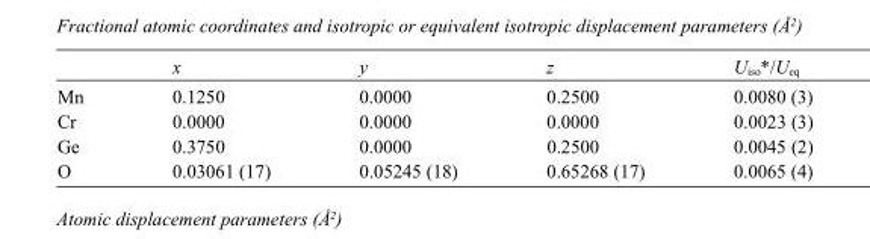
<table><thead><tr><td></td><td>x</td><td>y</td><td>z</td><td>U<sub>iso</sub>*/U<sub>eq</sub></td></tr></thead><tbody><tr><td>Mn</td><td>0.1250</td><td>0.0000</td><td>0.2500</td><td>0.0080 (3)</td></tr><tr><td>Cr</td><td>0.0000</td><td>0.0000</td><td>0.0000</td><td>0.0023 (3)</td></tr><tr><td>Ge</td><td>0.3750</td><td>0.0000</td><td>0.2500</td><td>0.0045 (2)</td></tr><tr><td>O</td><td>0.03061 (17)</td><td>0.05245 (18)</td><td>0.65268 (17)</td><td>0.0065 (4)</td></tr></tbody></table>